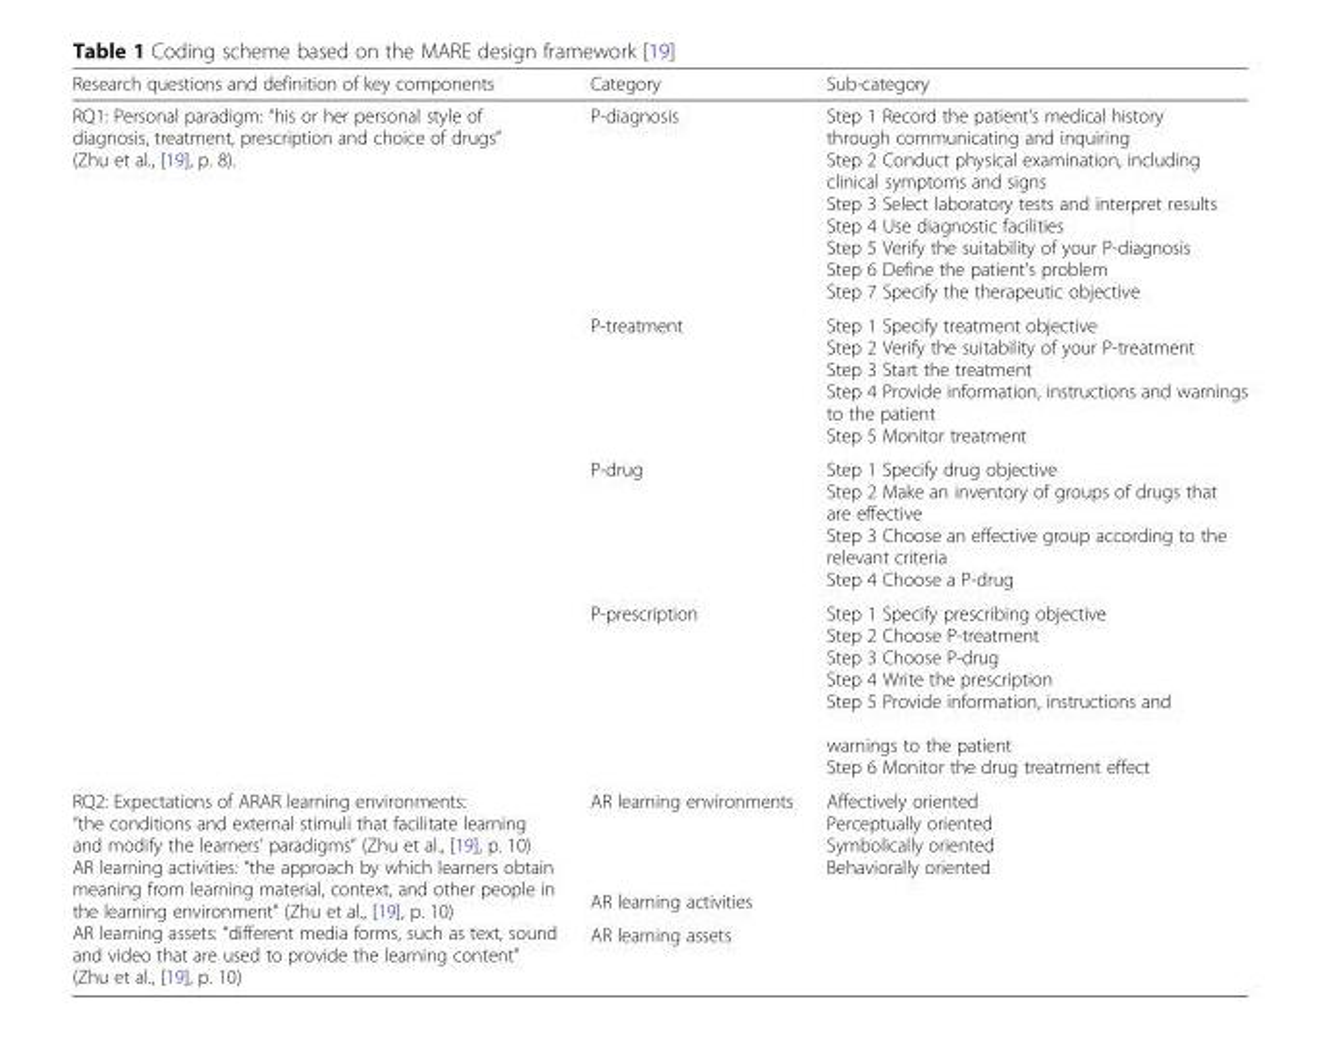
<table><thead><tr><td>Research questions and definition of key components</td><td>Category</td><td>Sub-category</td></tr></thead><tbody><tr><td rowspan="4">RQ1: Personal paradigm: “his or her personal style of diagnosis, treatment, prescription and choice of drugs” (Zhu et al., [19], p. 8).</td><td>P-diagnosis</td><td>Step 1 Record the patient’s medical history through communicating and inquiring Step 2 Conduct physical examination, including clinical symptoms and signs Step 3 Select laboratory tests and interpret results Step 4 Use diagnostic facilities Step 5 Verify the suitability of your P-diagnosis Step 6 Define the patient’s problem Step 7 Specify the therapeutic objective</td></tr><tr><td>P-treatment</td><td>Step 1 Specify treatment objective Step 2 Verify the suitability of your P-treatment Step 3 Start the treatment Step 4 Provide information, instructions and warnings to the patient Step 5 Monitor treatment</td></tr><tr><td>P-drug</td><td>Step 1 Specify drug objective Step 2 Make an inventory of groups of drugs that are effective Step 3 Choose an effective group according to the relevant criteria Step 4 Choose a P-drug</td></tr><tr><td>P-prescription</td><td>Step 1 Specify prescribing objective Step 2 Choose P-treatment Step 3 Choose P-drug Step 4 Write the prescription Step 5 Provide information, instructions and warnings to the patient Step 6 Monitor the drug treatment effect</td></tr><tr><td rowspan="3">RQ2: Expectations of ARAR learning environments: “the conditions and external stimuli that facilitate learning and modify the learners’ paradigms” (Zhu et al., [19], p. 10) AR learning activities: “the approach by which learners obtain meaning from learning material, context, and other people in the learning environment” (Zhu et al., [19], p. 10) AR learning assets: “different media forms, such as text, sound and video that are used to provide the learning content” (Zhu et al., [19], p. 10)</td><td>AR learning environments</td><td>Affectively oriented Perceptually oriented Symbolically oriented Behaviorally oriented</td></tr><tr><td>AR learning activities</td><td></td></tr><tr><td>AR learning assets</td><td></td></tr></tbody></table>